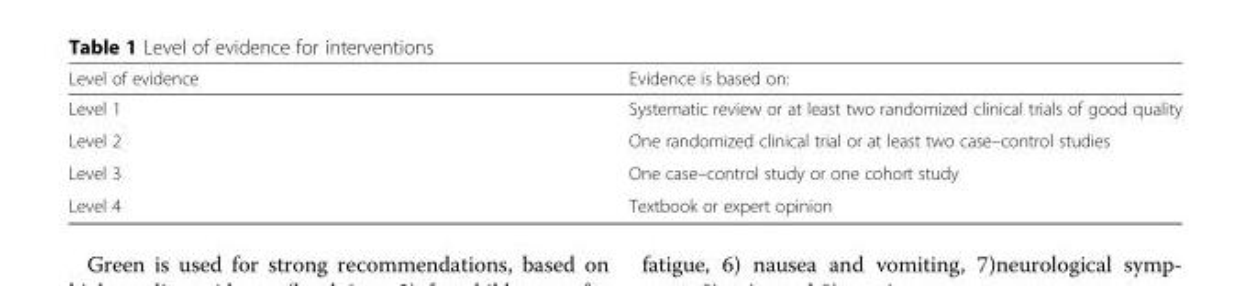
<table><thead><tr><td>Level of evidence</td><td>Evidence is based on:</td></tr></thead><tbody><tr><td>Level 1</td><td>Systematic review or at least two randomized clinical trials of good quality</td></tr><tr><td>Level 2</td><td>One randomized clinical trial or at least two case–control studies</td></tr><tr><td>Level 3</td><td>One case–control study or one cohort study</td></tr><tr><td>Level 4</td><td>Textbook or expert opinion</td></tr></tbody></table>